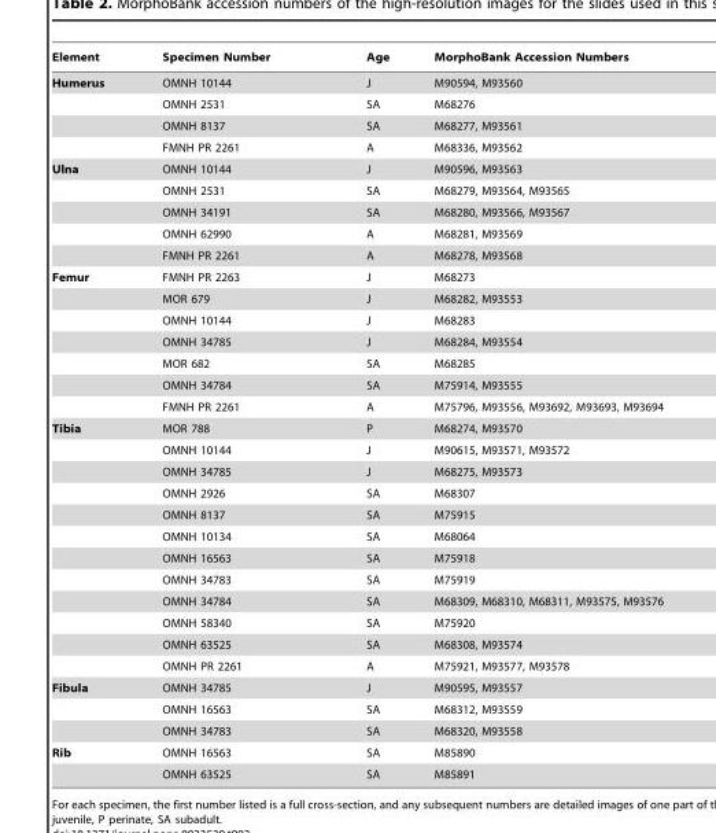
<table><thead><tr><td>Element</td><td>Specimen Number</td><td>Age</td><td>MorphoBank Accession Numbers</td></tr></thead><tbody><tr><td rowspan="4">Humerus</td><td>OMNH 10144</td><td>J</td><td>M90594, M93560</td></tr><tr><td>OMNH 2531</td><td>SA</td><td>M68276</td></tr><tr><td>OMNH 8137</td><td>SA</td><td>M68277, M93561</td></tr><tr><td>FMNH PR 2261</td><td>A</td><td>M68336, M93562</td></tr><tr><td rowspan="5">Ulna</td><td>OMNH 10144</td><td>J</td><td>M90596, M93563</td></tr><tr><td>OMNH 2531</td><td>SA</td><td>M68279, M93564, M93565</td></tr><tr><td>OMNH 34191</td><td>SA</td><td>M68280, M93566, M93567</td></tr><tr><td>OMNH 62990</td><td>A</td><td>M68281, M93569</td></tr><tr><td>FMNH PR 2261</td><td>A</td><td>M68278, M93568</td></tr><tr><td rowspan="7">Femur</td><td>FMNH PR 2263</td><td>J</td><td>M68273</td></tr><tr><td>MOR 679</td><td>J</td><td>M68282, M93553</td></tr><tr><td>OMNH 10144</td><td>J</td><td>M68283</td></tr><tr><td>OMNH 34785</td><td>J</td><td>M68284, M93554</td></tr><tr><td>MOR 682</td><td>SA</td><td>M68285</td></tr><tr><td>OMNH 34784</td><td>SA</td><td>M75914, M93555</td></tr><tr><td>FMNH PR 2261</td><td>A</td><td>M75796, M93556, M93692, M93693, M93694</td></tr><tr><td rowspan="12">Tibia</td><td>MOR 788</td><td>P</td><td>M68274, M93570</td></tr><tr><td>OMNH 10144</td><td>J</td><td>M90615, M93571, M93572</td></tr><tr><td>OMNH 34785</td><td>J</td><td>M68275, M93573</td></tr><tr><td>OMNH 2926</td><td>SA</td><td>M68307</td></tr><tr><td>OMNH 8137</td><td>SA</td><td>M75915</td></tr><tr><td>OMNH 10134</td><td>SA</td><td>M68064</td></tr><tr><td>OMNH 16563</td><td>SA</td><td>M75918</td></tr><tr><td>OMNH 34783</td><td>SA</td><td>M75919</td></tr><tr><td>OMNH 34784</td><td>SA</td><td>M68309, M68310, M68311, M93575, M93576</td></tr><tr><td>OMNH 58340</td><td>SA</td><td>M75920</td></tr><tr><td>OMNH 63525</td><td>SA</td><td>M68308, M93574</td></tr><tr><td>OMNH PR 2261</td><td>A</td><td>M75921, M93577, M93578</td></tr><tr><td rowspan="3">Fibula</td><td>OMNH 34785</td><td>J</td><td>M90595, M93557</td></tr><tr><td>OMNH 16563</td><td>SA</td><td>M68312, M93559</td></tr><tr><td>OMNH 34783</td><td>SA</td><td>M68320, M93558</td></tr><tr><td rowspan="2">Rib</td><td>OMNH 16563</td><td>SA</td><td>M85890</td></tr><tr><td>OMNH 63525</td><td>SA</td><td>M85891</td></tr></tbody></table>